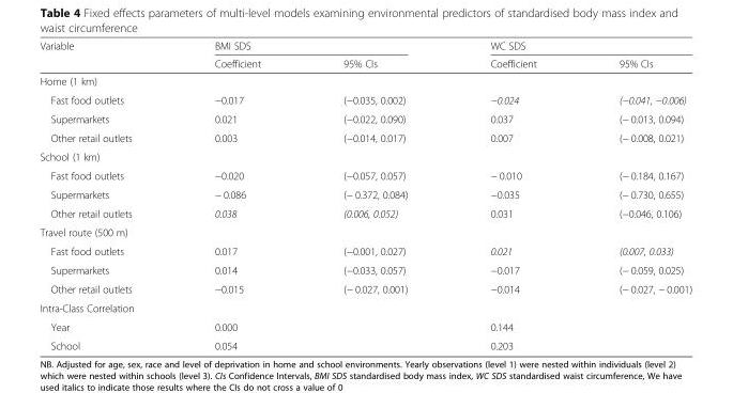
<table><thead><tr><td rowspan="2">Variable</td><td colspan="2">BMI SDS</td><td colspan="2">WC SDS</td></tr><tr><td>Coefficient</td><td>95% CIs</td><td>Coefficient</td><td>95% CIs</td></tr></thead><tbody><tr><td colspan="5">Home (1 km)</td></tr><tr><td>Fast food outlets</td><td>−0.017</td><td>(−0.035, 0.002)</td><td>−0.024</td><td>(−0.041, −0.006)</td></tr><tr><td>Supermarkets</td><td>0.021</td><td>(−0.022, 0.090)</td><td>0.037</td><td>(− 0.013, 0.094)</td></tr><tr><td>Other retail outlets</td><td>0.003</td><td>(−0.014, 0.017)</td><td>0.007</td><td>(− 0.008, 0.021)</td></tr><tr><td colspan="5">School (1 km)</td></tr><tr><td>Fast food outlets</td><td>−0.020</td><td>(−0.057, 0.057)</td><td>− 0.010</td><td>(− 0.184, 0.167)</td></tr><tr><td>Supermarkets</td><td>− 0.086</td><td>(− 0.372, 0.084)</td><td>−0.035</td><td>(− 0.730, 0.655)</td></tr><tr><td>Other retail outlets</td><td>0.038</td><td>(0.006, 0.052)</td><td>0.031</td><td>(−0.046, 0.106)</td></tr><tr><td colspan="5">Travel route (500 m)</td></tr><tr><td>Fast food outlets</td><td>0.017</td><td>(−0.001, 0.027)</td><td>0.021</td><td>(0.007, 0.033)</td></tr><tr><td>Supermarkets</td><td>0.014</td><td>(−0.033, 0.057)</td><td>−0.017</td><td>(− 0.059, 0.025)</td></tr><tr><td>Other retail outlets</td><td>−0.015</td><td>(− 0.027, 0.001)</td><td>−0.014</td><td>(− 0.027, − 0.001)</td></tr><tr><td colspan="5">Intra-Class Correlation</td></tr><tr><td>Year</td><td>0.000</td><td></td><td>0.144</td><td></td></tr><tr><td>School</td><td>0.054</td><td></td><td>0.203</td><td></td></tr></tbody></table>